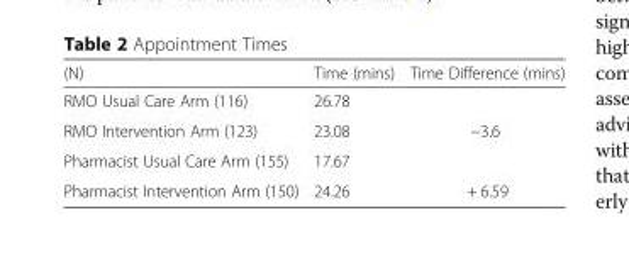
<table><thead><tr><td>(N)</td><td>Time (mins)</td><td>Time Difference (mins)</td></tr></thead><tbody><tr><td>RMO Usual Care Arm (116)</td><td>26.78</td><td></td></tr><tr><td>RMO Intervention Arm (123)</td><td>23.08</td><td>−3.6</td></tr><tr><td>Pharmacist Usual Care Arm (155)</td><td>17.67</td><td></td></tr><tr><td>Pharmacist Intervention Arm (150)</td><td>24.26</td><td>+ 6.59</td></tr></tbody></table>